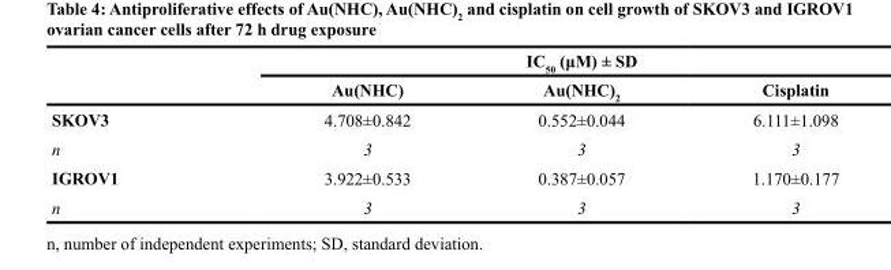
<table><thead><tr><td rowspan="2"></td><td colspan="3">IC<sub>50</sub> (μM) ± SD</td></tr><tr><td>Au(NHC)</td><td>Au(NHC)<sub>2</sub></td><td>Cisplatin</td></tr></thead><tbody><tr><td>SKOV3</td><td>4.708±0.842</td><td>0.552±0.044</td><td>6.111±1.098</td></tr><tr><td>n</td><td>3</td><td>3</td><td>3</td></tr><tr><td>IGROV1</td><td>3.922±0.533</td><td>0.387±0.057</td><td>1.170±0.177</td></tr><tr><td>n</td><td>3</td><td>3</td><td>3</td></tr></tbody></table>